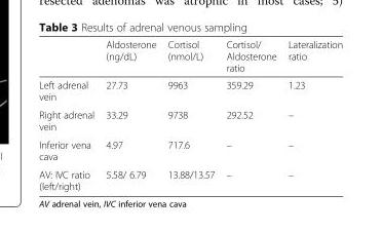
<table><thead><tr><td></td><td>Aldosterone (ng/dL)</td><td>Cortisol (nmol/L)</td><td>Cortisol/ Aldosterone ratio</td><td>Lateralization ratio</td></tr></thead><tbody><tr><td>Left adrenal vein</td><td>27.73</td><td>9963</td><td>359.29</td><td>1.23</td></tr><tr><td>Right adrenal vein</td><td>33.29</td><td>9738</td><td>292.52</td><td>–</td></tr><tr><td>Inferior vena cava</td><td>4.97</td><td>717.6</td><td>–</td><td>–</td></tr><tr><td>AV: IVC ratio (left/right)</td><td>5.58/ 6.79</td><td>13.88/13.57</td><td>–</td><td>–</td></tr></tbody></table>